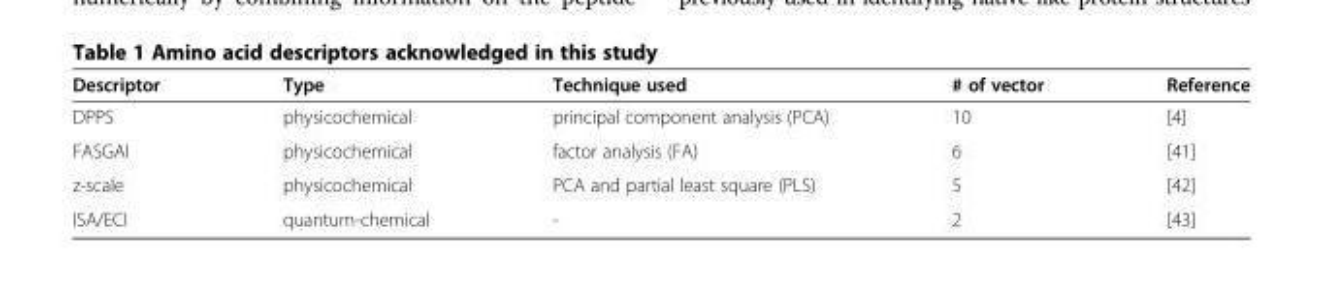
<table><thead><tr><td>Descriptor</td><td>Type</td><td>Technique used</td><td># of vector</td><td>Reference</td></tr></thead><tbody><tr><td>DPPS</td><td>physicochemical</td><td>principal component analysis (PCA)</td><td>10</td><td>[4]</td></tr><tr><td>FASGAI</td><td>physicochemical</td><td>factor analysis (FA)</td><td>6</td><td>[41]</td></tr><tr><td>z-scale</td><td>physicochemical</td><td>PCA and partial least square (PLS)</td><td>5</td><td>[42]</td></tr><tr><td>ISA/ECI</td><td>quantum-chemical</td><td>-</td><td>2</td><td>[43]</td></tr></tbody></table>